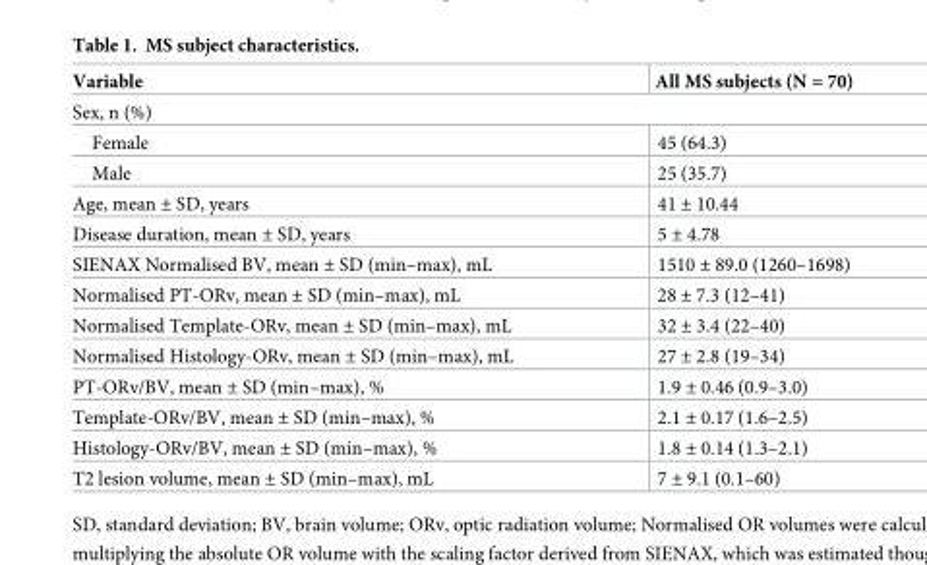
<table><thead><tr><td>Variable</td><td>All MS subjects (N = 70)</td></tr></thead><tbody><tr><td colspan="2">Sex, n (%)</td></tr><tr><td>Female</td><td>45 (64.3)</td></tr><tr><td>Male</td><td>25 (35.7)</td></tr><tr><td>Age, mean ± SD, years</td><td>41 ± 10.44</td></tr><tr><td>Disease duration, mean ± SD, years</td><td>5 ± 4.78</td></tr><tr><td>SIENAX Normalised BV, mean ± SD (min–max), mL</td><td>1510 ± 89.0 (1260–1698)</td></tr><tr><td>Normalised PT-ORv, mean ± SD (min–max), mL</td><td>28 ± 7.3 (12–41)</td></tr><tr><td>Normalised Template-ORv, mean ± SD (min–max), mL</td><td>32 ± 3.4 (22–40)</td></tr><tr><td>Normalised Histology-ORv, mean ± SD (min–max), mL</td><td>27 ± 2.8 (19–34)</td></tr><tr><td>PT-ORv/BV, mean ± SD (min–max), %</td><td>1.9 ± 0.46 (0.9–3.0)</td></tr><tr><td>Template-ORv/BV, mean ± SD (min–max), %</td><td>2.1 ± 0.17 (1.6–2.5)</td></tr><tr><td>Histology-ORv/BV, mean ± SD (min–max), %</td><td>1.8 ± 0.14 (1.3–2.1)</td></tr><tr><td>T2 lesion volume, mean ± SD (min–max), mL</td><td>7 ± 9.1 (0.1–60)</td></tr></tbody></table>